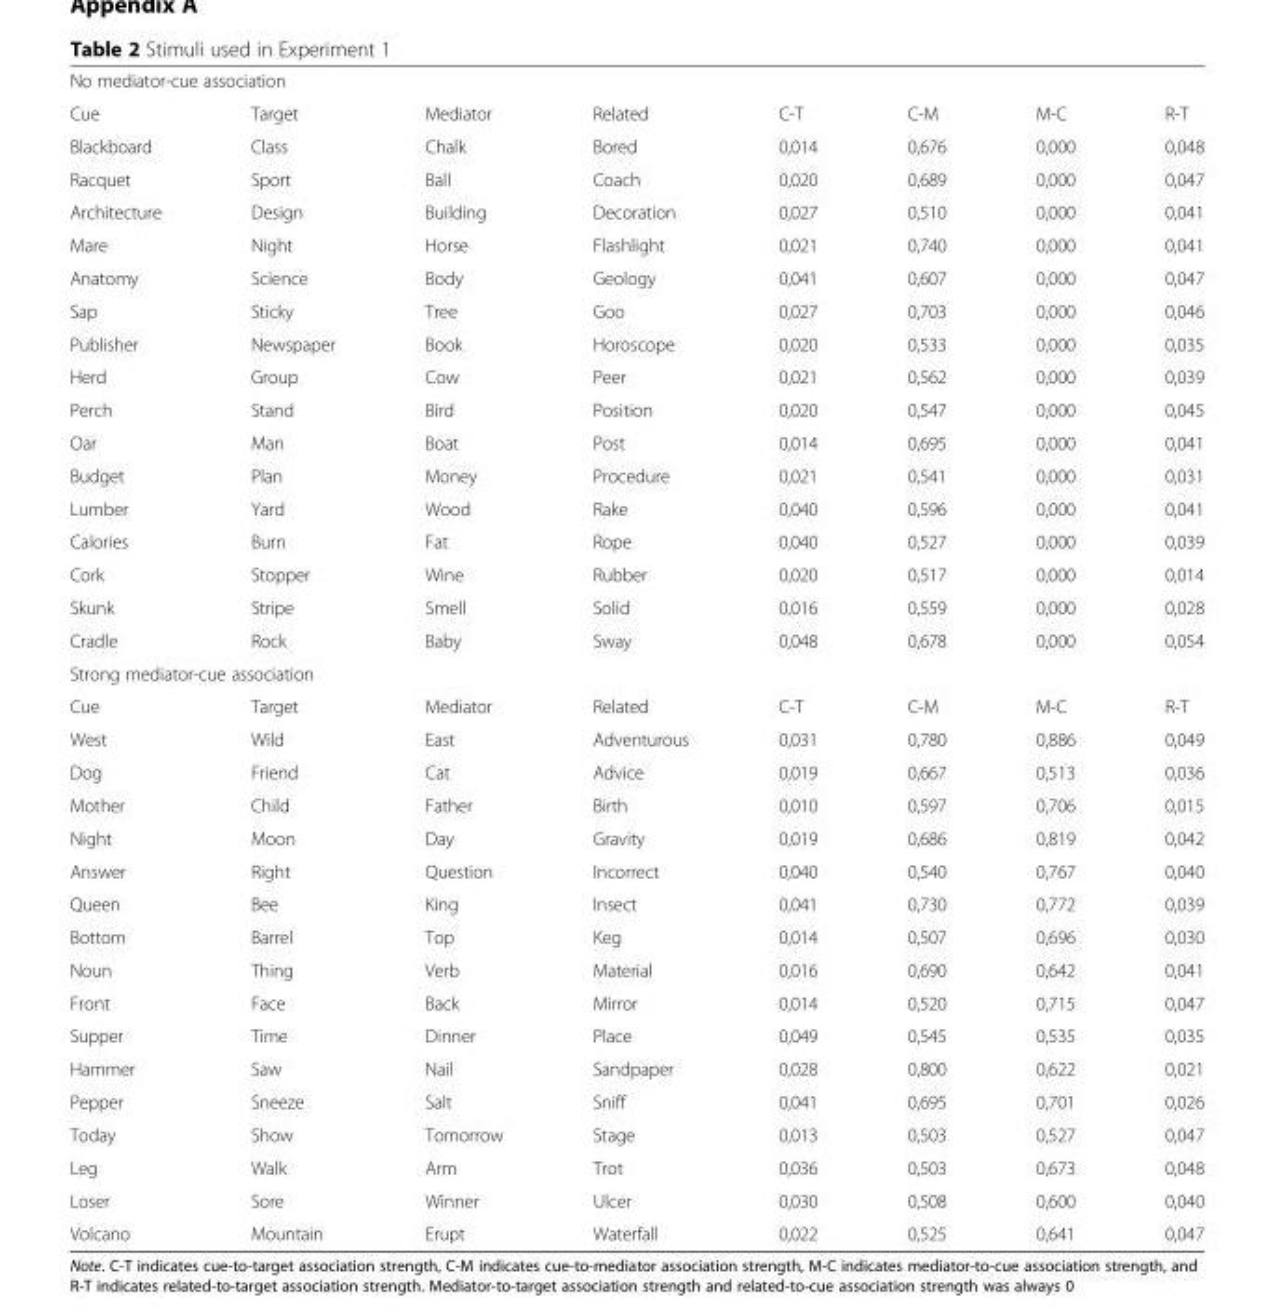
<table><tbody><tr><td colspan="8">No mediator-cue association</td></tr><tr><td>Cue</td><td>Target</td><td>Mediator</td><td>Related</td><td>C-T</td><td>C-M</td><td>M-C</td><td>R-T</td></tr><tr><td>Blackboard</td><td>Class</td><td>Chalk</td><td>Bored</td><td>0,014</td><td>0,676</td><td>0,000</td><td>0,048</td></tr><tr><td>Racquet</td><td>Sport</td><td>Ball</td><td>Coach</td><td>0,020</td><td>0,689</td><td>0,000</td><td>0,047</td></tr><tr><td>Architecture</td><td>Design</td><td>Building</td><td>Decoration</td><td>0,027</td><td>0,510</td><td>0,000</td><td>0,041</td></tr><tr><td>Mare</td><td>Night</td><td>Horse</td><td>Flashlight</td><td>0,021</td><td>0,740</td><td>0,000</td><td>0,041</td></tr><tr><td>Anatomy</td><td>Science</td><td>Body</td><td>Geology</td><td>0,041</td><td>0,607</td><td>0,000</td><td>0,047</td></tr><tr><td>Sap</td><td>Sticky</td><td>Tree</td><td>Goo</td><td>0,027</td><td>0,703</td><td>0,000</td><td>0,046</td></tr><tr><td>Publisher</td><td>Newspaper</td><td>Book</td><td>Horoscope</td><td>0,020</td><td>0,533</td><td>0,000</td><td>0,035</td></tr><tr><td>Herd</td><td>Group</td><td>Cow</td><td>Peer</td><td>0,021</td><td>0,562</td><td>0,000</td><td>0,039</td></tr><tr><td>Perch</td><td>Stand</td><td>Bird</td><td>Position</td><td>0,020</td><td>0,547</td><td>0,000</td><td>0,045</td></tr><tr><td>Oar</td><td>Man</td><td>Boat</td><td>Post</td><td>0,014</td><td>0,695</td><td>0,000</td><td>0,041</td></tr><tr><td>Budget</td><td>Plan</td><td>Money</td><td>Procedure</td><td>0,021</td><td>0,541</td><td>0,000</td><td>0,031</td></tr><tr><td>Lumber</td><td>Yard</td><td>Wood</td><td>Rake</td><td>0,040</td><td>0,596</td><td>0,000</td><td>0,041</td></tr><tr><td>Calories</td><td>Burn</td><td>Fat</td><td>Rope</td><td>0,040</td><td>0,527</td><td>0,000</td><td>0,039</td></tr><tr><td>Cork</td><td>Stopper</td><td>Wine</td><td>Rubber</td><td>0,020</td><td>0,517</td><td>0,000</td><td>0,014</td></tr><tr><td>Skunk</td><td>Stripe</td><td>Smell</td><td>Solid</td><td>0,016</td><td>0,559</td><td>0,000</td><td>0,028</td></tr><tr><td>Cradle</td><td>Rock</td><td>Baby</td><td>Sway</td><td>0,048</td><td>0,678</td><td>0,000</td><td>0,054</td></tr><tr><td colspan="8">Strong mediator-cue association</td></tr><tr><td>Cue</td><td>Target</td><td>Mediator</td><td>Related</td><td>C-T</td><td>C-M</td><td>M-C</td><td>R-T</td></tr><tr><td>West</td><td>Wild</td><td>East</td><td>Adventurous</td><td>0,031</td><td>0,780</td><td>0,886</td><td>0,049</td></tr><tr><td>Dog</td><td>Friend</td><td>Cat</td><td>Advice</td><td>0,019</td><td>0,667</td><td>0,513</td><td>0,036</td></tr><tr><td>Mother</td><td>Child</td><td>Father</td><td>Birth</td><td>0,010</td><td>0,597</td><td>0,706</td><td>0,015</td></tr><tr><td>Night</td><td>Moon</td><td>Day</td><td>Gravity</td><td>0,019</td><td>0,686</td><td>0,819</td><td>0,042</td></tr><tr><td>Answer</td><td>Right</td><td>Question</td><td>Incorrect</td><td>0,040</td><td>0,540</td><td>0,767</td><td>0,040</td></tr><tr><td>Queen</td><td>Bee</td><td>King</td><td>Insect</td><td>0,041</td><td>0,730</td><td>0,772</td><td>0,039</td></tr><tr><td>Bottom</td><td>Barrel</td><td>Top</td><td>Keg</td><td>0,014</td><td>0,507</td><td>0,696</td><td>0,030</td></tr><tr><td>Noun</td><td>Thing</td><td>Verb</td><td>Material</td><td>0,016</td><td>0,690</td><td>0,642</td><td>0,041</td></tr><tr><td>Front</td><td>Face</td><td>Back</td><td>Mirror</td><td>0,014</td><td>0,520</td><td>0,715</td><td>0,047</td></tr><tr><td>Supper</td><td>Time</td><td>Dinner</td><td>Place</td><td>0,049</td><td>0,545</td><td>0,535</td><td>0,035</td></tr><tr><td>Hammer</td><td>Saw</td><td>Nail</td><td>Sandpaper</td><td>0,028</td><td>0,800</td><td>0,622</td><td>0,021</td></tr><tr><td>Pepper</td><td>Sneeze</td><td>Salt</td><td>Sniff</td><td>0,041</td><td>0,695</td><td>0,701</td><td>0,026</td></tr><tr><td>Today</td><td>Show</td><td>Tomorrow</td><td>Stage</td><td>0,013</td><td>0,503</td><td>0,527</td><td>0,047</td></tr><tr><td>Leg</td><td>Walk</td><td>Arm</td><td>Trot</td><td>0,036</td><td>0,503</td><td>0,673</td><td>0,048</td></tr><tr><td>Loser</td><td>Sore</td><td>Winner</td><td>Ulcer</td><td>0,030</td><td>0,508</td><td>0,600</td><td>0,040</td></tr><tr><td>Volcano</td><td>Mountain</td><td>Erupt</td><td>Waterfall</td><td>0,022</td><td>0,525</td><td>0,641</td><td>0,047</td></tr></tbody></table>